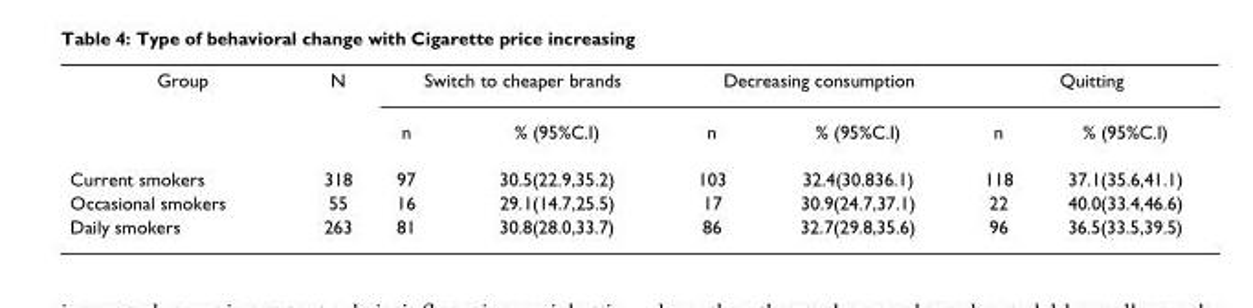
<table><tbody><tr><td rowspan="2">Group</td><td>N</td><td colspan="2">Switch to cheaper brands</td><td colspan="2">Decreasing consumption</td><td colspan="2">Quitting</td></tr><tr><td></td><td>n</td><td>% (95%C.I)</td><td>n</td><td>% (95%C.I)</td><td>n</td><td>% (95%C.I)</td></tr><tr><td>Current smokers</td><td>318</td><td>97</td><td>30.5(22.9,35.2)</td><td>103</td><td>32.4(30.836.1)</td><td>118</td><td>37.1(35.6,41.1)</td></tr><tr><td>Occasional smokers</td><td>55</td><td>16</td><td>29.1(14.7,25.5)</td><td>17</td><td>30.9(24.7,37.1)</td><td>22</td><td>40.0(33.4,46.6)</td></tr><tr><td>Daily smokers</td><td>263</td><td>81</td><td>30.8(28.0,33.7)</td><td>86</td><td>32.7(29.8,35.6)</td><td>96</td><td>36.5(33.5,39.5)</td></tr></tbody></table>